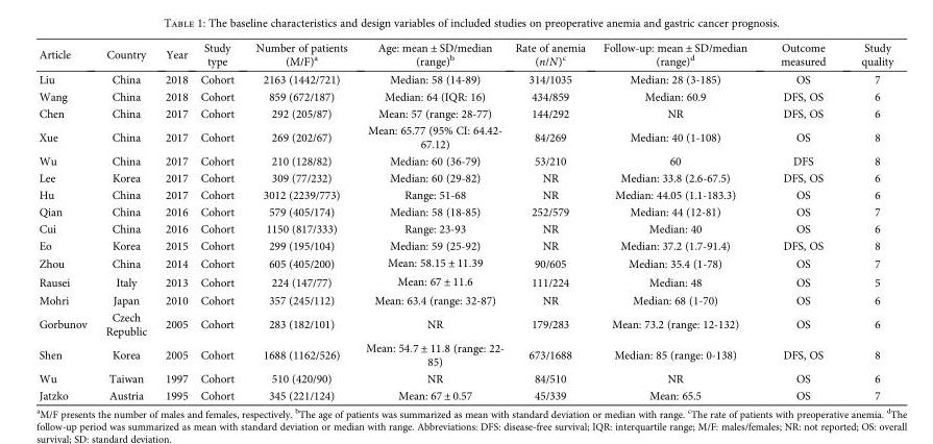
<table><thead><tr><td>Article</td><td>Country</td><td>Year</td><td>Study type</td><td>Number of patients (M/F)<sup>a</sup></td><td>Age: mean ± SD/median (range)<sup>b</sup></td><td>Rate of anemia (n/N)<sup>c</sup></td><td>Follow-up: mean ± SD/median (range)<sup>d</sup></td><td>Outcome measured</td><td>Study quality</td></tr></thead><tbody><tr><td>Liu</td><td>China</td><td>2018</td><td>Cohort</td><td>2163 (1442/721)</td><td>Median: 58 (14-89)</td><td>314/1035</td><td>Median: 28 (3-185)</td><td>OS</td><td>7</td></tr><tr><td>Wang</td><td>China</td><td>2018</td><td>Cohort</td><td>859 (672/187)</td><td>Median: 64 (IQR: 16)</td><td>434/859</td><td>Median: 60.9</td><td>DFS, OS</td><td>6</td></tr><tr><td>Chen</td><td>China</td><td>2017</td><td>Cohort</td><td>292 (205/87)</td><td>Mean: 57 (range: 28-77)</td><td>144/292</td><td>NR</td><td>DFS, OS</td><td>6</td></tr><tr><td>Xue</td><td>China</td><td>2017</td><td>Cohort</td><td>269 (202/67)</td><td>Mean: 65.77 (95% CI: 64.42- 67.12)</td><td>84/269</td><td>Median: 40 (1-108)</td><td>OS</td><td>8</td></tr><tr><td>Wu</td><td>China</td><td>2017</td><td>Cohort</td><td>210 (128/82)</td><td>Median: 60 (36-79)</td><td>53/210</td><td>60</td><td>DFS</td><td>8</td></tr><tr><td>Lee</td><td>Korea</td><td>2017</td><td>Cohort</td><td>309 (77/232)</td><td>Median: 60 (29-82)</td><td>NR</td><td>Median: 33.8 (2.6-67.5)</td><td>DFS, OS</td><td>6</td></tr><tr><td>Hu</td><td>China</td><td>2017</td><td>Cohort</td><td>3012 (2239/773)</td><td>Range: 51-68</td><td>NR</td><td>Median: 44.05 (1.1-183.3)</td><td>OS</td><td>6</td></tr><tr><td>Qian</td><td>China</td><td>2016</td><td>Cohort</td><td>579 (405/174)</td><td>Median: 58 (18-85)</td><td>252/579</td><td>Median: 44 (12-81)</td><td>OS</td><td>7</td></tr><tr><td>Cui</td><td>China</td><td>2016</td><td>Cohort</td><td>1150 (817/333)</td><td>Range: 23-93</td><td>NR</td><td>Median: 40</td><td>OS</td><td>6</td></tr><tr><td>Eo</td><td>Korea</td><td>2015</td><td>Cohort</td><td>299 (195/104)</td><td>Median: 59 (25-92)</td><td>NR</td><td>Median: 37.2 (1.7-91.4)</td><td>DFS, OS</td><td>8</td></tr><tr><td>Zhou</td><td>China</td><td>2014</td><td>Cohort</td><td>605 (405/200)</td><td>Mean: 58 15 ± 11 39</td><td>90/605</td><td>Median: 35.4 (1-78)</td><td>OS</td><td>7</td></tr><tr><td>Rausei</td><td>Italy</td><td>2013</td><td>Cohort</td><td>224 (147/77)</td><td>Mean: 67 ± 11 6</td><td>111/224</td><td>Median: 48</td><td>OS</td><td>5</td></tr><tr><td>Mohri</td><td>Japan</td><td>2010</td><td>Cohort</td><td>357 (245/112)</td><td>Mean: 63.4 (range: 32-87)</td><td>NR</td><td>Median: 68 (1-70)</td><td>OS</td><td>6</td></tr><tr><td>Gorbunov</td><td>Czech Republic</td><td>2005</td><td>Cohort</td><td>283 (182/101)</td><td>NR</td><td>179/283</td><td>Mean: 73.2 (range: 12-132)</td><td>OS</td><td>6</td></tr><tr><td>Shen</td><td>Korea</td><td>2005</td><td>Cohort</td><td>1688 (1162/526)</td><td>Mean: 54 7 ± 11 8 (range: 22- 85)</td><td>673/1688</td><td>Median: 85 (range: 0-138)</td><td>DFS, OS</td><td>8</td></tr><tr><td>Wu</td><td>Taiwan</td><td>1997</td><td>Cohort</td><td>510 (420/90)</td><td>NR</td><td>84/510</td><td>NR</td><td>OS</td><td>6</td></tr><tr><td>Jatzko</td><td>Austria</td><td>1995</td><td>Cohort</td><td>345 (221/124)</td><td>Mean: 67 ± 0.57</td><td>45/339</td><td>Mean: 65.5</td><td>OS</td><td>7</td></tr></tbody></table>